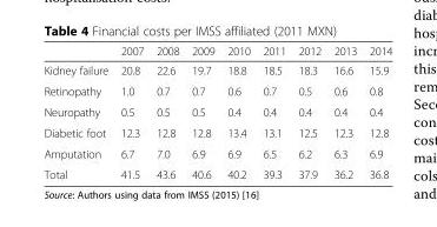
<table><thead><tr><td></td><td>2007</td><td>2008</td><td>2009</td><td>2010</td><td>2011</td><td>2012</td><td>2013</td><td>2014</td></tr></thead><tbody><tr><td>Kidney failure</td><td>20.8</td><td>22.6</td><td>19.7</td><td>18.8</td><td>18.5</td><td>18.3</td><td>16.6</td><td>15.9</td></tr><tr><td>Retinopathy</td><td>1.0</td><td>0.7</td><td>0.7</td><td>0.6</td><td>0.7</td><td>0.5</td><td>0.6</td><td>0.8</td></tr><tr><td>Neuropathy</td><td>0.5</td><td>0.5</td><td>0.5</td><td>0.4</td><td>0.4</td><td>0.4</td><td>0.4</td><td>0.4</td></tr><tr><td>Diabetic foot</td><td>12.3</td><td>12.8</td><td>12.8</td><td>13.4</td><td>13.1</td><td>12.5</td><td>12.3</td><td>12.8</td></tr><tr><td>Amputation</td><td>6.7</td><td>7.0</td><td>6.9</td><td>6.9</td><td>6.5</td><td>6.2</td><td>6.3</td><td>6.9</td></tr><tr><td>Total</td><td>41.5</td><td>43.6</td><td>40.6</td><td>40.2</td><td>39.3</td><td>37.9</td><td>36.2</td><td>36.8</td></tr></tbody></table>